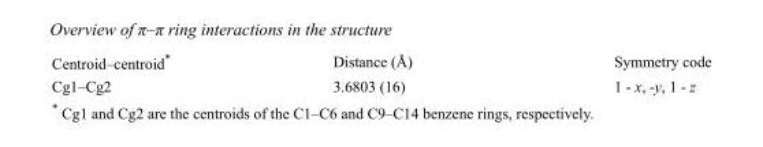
<table><tbody><tr><td>Centroid–centroid*</td><td>Distance (Å)</td><td>Symmetry code</td></tr><tr><td>Cg1–Cg2</td><td>3.6803 (16)</td><td>1 - x, -y, 1 - z</td></tr></tbody></table>